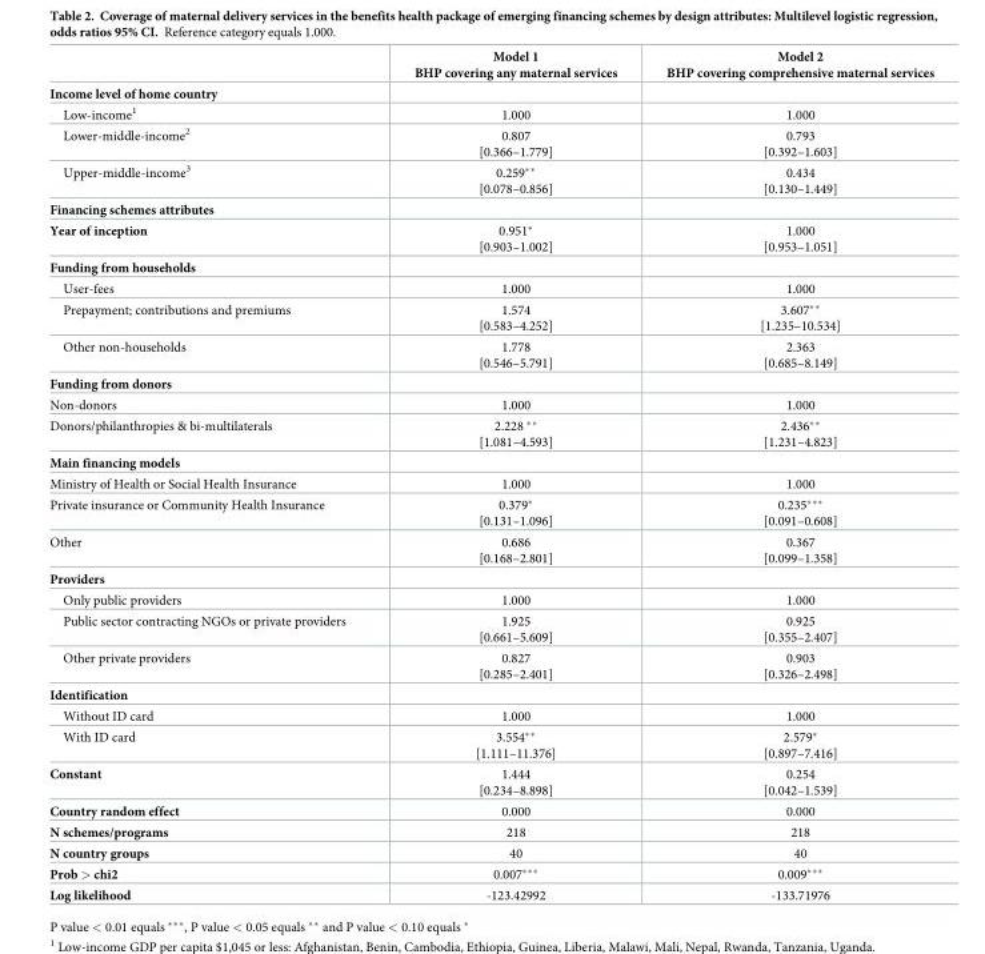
<table><thead><tr><td></td><td>Model 1 BHP covering any maternal services</td><td>Model 2 BHP covering comprehensive maternal services</td></tr></thead><tbody><tr><td colspan="3">Income level of home country</td></tr><tr><td>Low-income<sup>1</sup></td><td>1.000</td><td>1.000</td></tr><tr><td>Lower-middle-income<sup>2</sup></td><td>0.807 [0.366–1.779]</td><td>0.793 [0.392–1.603]</td></tr><tr><td>Upper-middle-income<sup>3</sup></td><td>0.259** [0.078–0.856]</td><td>0.434 [0.130–1.449]</td></tr><tr><td colspan="3">Financing schemes attributes</td></tr><tr><td>Year of inception</td><td>0.951* [0.903–1.002]</td><td>1.000 [0.953–1.051]</td></tr><tr><td colspan="3">Funding from households</td></tr><tr><td>User-fees</td><td>1.000</td><td>1.000</td></tr><tr><td>Prepayment; contributions and premiums</td><td>1.574 [0.583–4.252]</td><td>3.607** [1.235–10.534]</td></tr><tr><td>Other non-households</td><td>1.778 [0.546–5.791]</td><td>2.363 [0.685–8.149]</td></tr><tr><td colspan="3">Funding from donors</td></tr><tr><td>Non-donors</td><td>1.000</td><td>1.000</td></tr><tr><td>Donors/philanthropies &amp; bi-multilaterals</td><td>2.228 ** [1.081–4.593]</td><td>2.436** [1.231–4.823]</td></tr><tr><td colspan="3">Main financing models</td></tr><tr><td>Ministry of Health or Social Health Insurance</td><td>1.000</td><td>1.000</td></tr><tr><td>Private insurance or Community Health Insurance</td><td>0.379* [0.131–1.096]</td><td>0.235*** [0.091–0.608]</td></tr><tr><td>Other</td><td>0.686 [0.168–2.801]</td><td>0.367 [0.099–1.358]</td></tr><tr><td colspan="3">Providers</td></tr><tr><td>Only public providers</td><td>1.000</td><td>1.000</td></tr><tr><td>Public sector contracting NGOs or private providers</td><td>1.925 [0.661–5.609]</td><td>0.925 [0.355–2.407]</td></tr><tr><td>Other private providers</td><td>0.827 [0.285–2.401]</td><td>0.903 [0.326–2.498]</td></tr><tr><td colspan="3">Identification</td></tr><tr><td>Without ID card</td><td>1.000</td><td>1.000</td></tr><tr><td>With ID card</td><td>3.554** [1.111–11.376]</td><td>2.579* [0.897–7.416]</td></tr><tr><td>Constant</td><td>1.444 [0.234–8.898]</td><td>0.254 [0.042–1.539]</td></tr><tr><td>Country random effect</td><td>0.000</td><td>0.000</td></tr><tr><td>N schemes/programs</td><td>218</td><td>218</td></tr><tr><td>N country groups</td><td>40</td><td>40</td></tr><tr><td>Prob &gt; chi2</td><td>0.007***</td><td>0.009***</td></tr><tr><td>Log likelihood</td><td>-123.42992</td><td>-133.71976</td></tr></tbody></table>